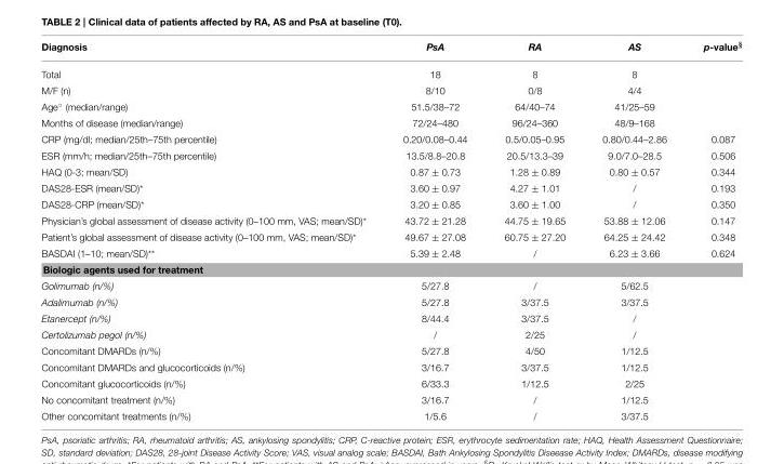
<table><thead><tr><td>Diagnosis</td><td>PsA</td><td>RA</td><td>AS</td><td>p-value<sup>§</sup></td></tr></thead><tbody><tr><td>Total</td><td>18</td><td>8</td><td>8</td><td></td></tr><tr><td>M/F (n)</td><td>8/10</td><td>0/8</td><td>4/4</td><td></td></tr><tr><td>Age◦ (median/range)</td><td>51.5/38–72</td><td>64/40–74</td><td>41/25–59</td><td></td></tr><tr><td>Months of disease (median/range)</td><td>72/24–480</td><td>96/24–360</td><td>48/9–168</td><td></td></tr><tr><td>CRP (mg/dl; median/25th–75th percentile)</td><td>0.20/0.08–0.44</td><td>0.5/0.05–0.95</td><td>0.80/0.44–2.86</td><td>0.087</td></tr><tr><td>ESR (mm/h; median/25th–75th percentile)</td><td>13.5/8.8–20.8</td><td>20.5/13.3–39</td><td>9.0/7.0–28.5</td><td>0.506</td></tr><tr><td>HAQ (0-3; mean/SD)</td><td>0.87 ± 0.73</td><td>1.28 ± 0.89</td><td>0.80 ± 0.57</td><td>0.344</td></tr><tr><td>DAS28-ESR (mean/SD)*</td><td>3.60 ± 0.97</td><td>4.27 ± 1.01</td><td>/</td><td>0.193</td></tr><tr><td>DAS28-CRP (mean/SD)*</td><td>3.20 ± 0.85</td><td>3.60 ± 1.00</td><td>/</td><td>0.350</td></tr><tr><td>Physician’s global assessment of disease activity (0–100 mm, VAS; mean/SD)*</td><td>43.72 ± 21.28</td><td>44.75 ± 19.65</td><td>53.88 ± 12.06</td><td>0.147</td></tr><tr><td>Patient’s global assessment of disease activity (0–100 mm, VAS; mean/SD)*</td><td>49.67 ± 27.08</td><td>60.75 ± 27.20</td><td>64.25 ± 24.42</td><td>0.348</td></tr><tr><td>BASDAI (1–10; mean/SD)**</td><td>5.39 ± 2.48</td><td>/</td><td>6.23 ± 3.66</td><td>0.624</td></tr><tr><td colspan="5">Biologic agents used for treatment</td></tr><tr><td>Golimumab (n/%)</td><td>5/27.8</td><td>/</td><td>5/62.5</td><td></td></tr><tr><td>Adalimumab (n/%)</td><td>5/27.8</td><td>3/37.5</td><td>3/37.5</td><td></td></tr><tr><td>Etanercept (n/%)</td><td>8/44.4</td><td>3/37.5</td><td>/</td><td></td></tr><tr><td>Certolizumab pegol (n/%)</td><td>/</td><td>2/25</td><td>/</td><td></td></tr><tr><td>Concomitant DMARDs (n/%)</td><td>5/27.8</td><td>4/50</td><td>1/12.5</td><td></td></tr><tr><td>Concomitant DMARDs and glucocorticoids (n/%)</td><td>3/16.7</td><td>3/37.5</td><td>1/12.5</td><td></td></tr><tr><td>Concomitant glucocorticoids (n/%)</td><td>6/33.3</td><td>1/12.5</td><td>2/25</td><td></td></tr><tr><td>No concomitant treatment (n/%)</td><td>3/16.7</td><td>/</td><td>1/12.5</td><td></td></tr><tr><td>Other concomitant treatments (n/%)</td><td>1/5.6</td><td>/</td><td>3/37.5</td><td></td></tr></tbody></table>